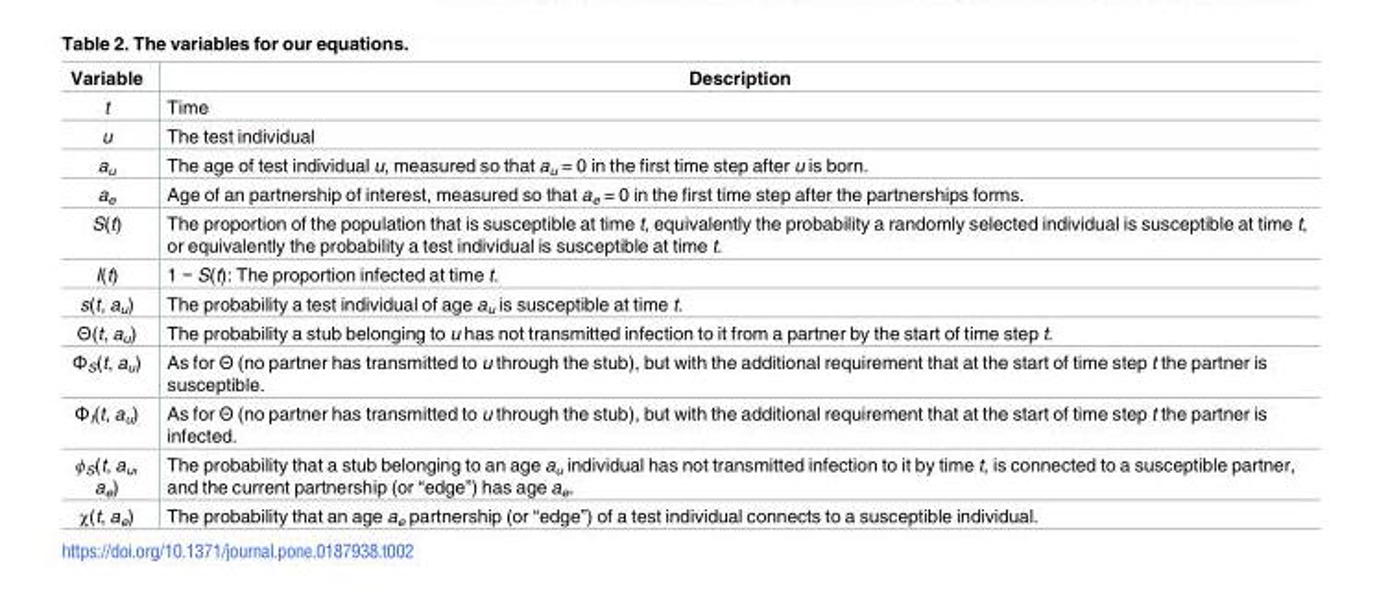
<table><thead><tr><td>Variable</td><td>Description</td></tr></thead><tbody><tr><td>t</td><td>Time</td></tr><tr><td>u</td><td>The test individual</td></tr><tr><td>a<sub>u</sub></td><td>The age of test individual u, measured so that a<sub>u</sub> = 0 in the first time step after u is born.</td></tr><tr><td>a<sub>e</sub></td><td>Age of an partnership of interest, measured so that a<sub>e</sub> = 0 in the first time step after the partnerships forms.</td></tr><tr><td>S(t)</td><td>The proportion of the population that is susceptible at time t, equivalently the probability a randomly selected individual is susceptible at time t, or equivalently the probability a test individual is susceptible at time t.</td></tr><tr><td>I(t)</td><td>1 − S(t): The proportion infected at time t.</td></tr><tr><td>s(t, a<sub>u</sub>)</td><td>The probability a test individual of age a<sub>u</sub> is susceptible at time t.</td></tr><tr><td>Θ(t, a<sub>u</sub>)</td><td>The probability a stub belonging to u has not transmitted infection to it from a partner by the start of time step t.</td></tr><tr><td>Φ<sub>S</sub>(t, a<sub>u</sub>)</td><td>As for Θ (no partner has transmitted to u through the stub), but with the additional requirement that at the start of time step t the partner is susceptible.</td></tr><tr><td>Φ<sub>I</sub>(t, a<sub>u</sub>)</td><td>As for Θ (no partner has transmitted to u through the stub), but with the additional requirement that at the start of time step t the partner is infected.</td></tr><tr><td>ϕ<sub>S</sub>(t, a<sub>u</sub>, a<sub>e</sub>)</td><td>The probability that a stub belonging to an age a<sub>u</sub> individual has not transmitted infection to it by time t, is connected to a susceptible partner, and the current partnership (or “edge”) has age a<sub>e</sub>.</td></tr><tr><td>χ(t, a<sub>e</sub>)</td><td>The probability that an age a<sub>e</sub> partnership (or “edge”) of a test individual connects to a susceptible individual.</td></tr></tbody></table>